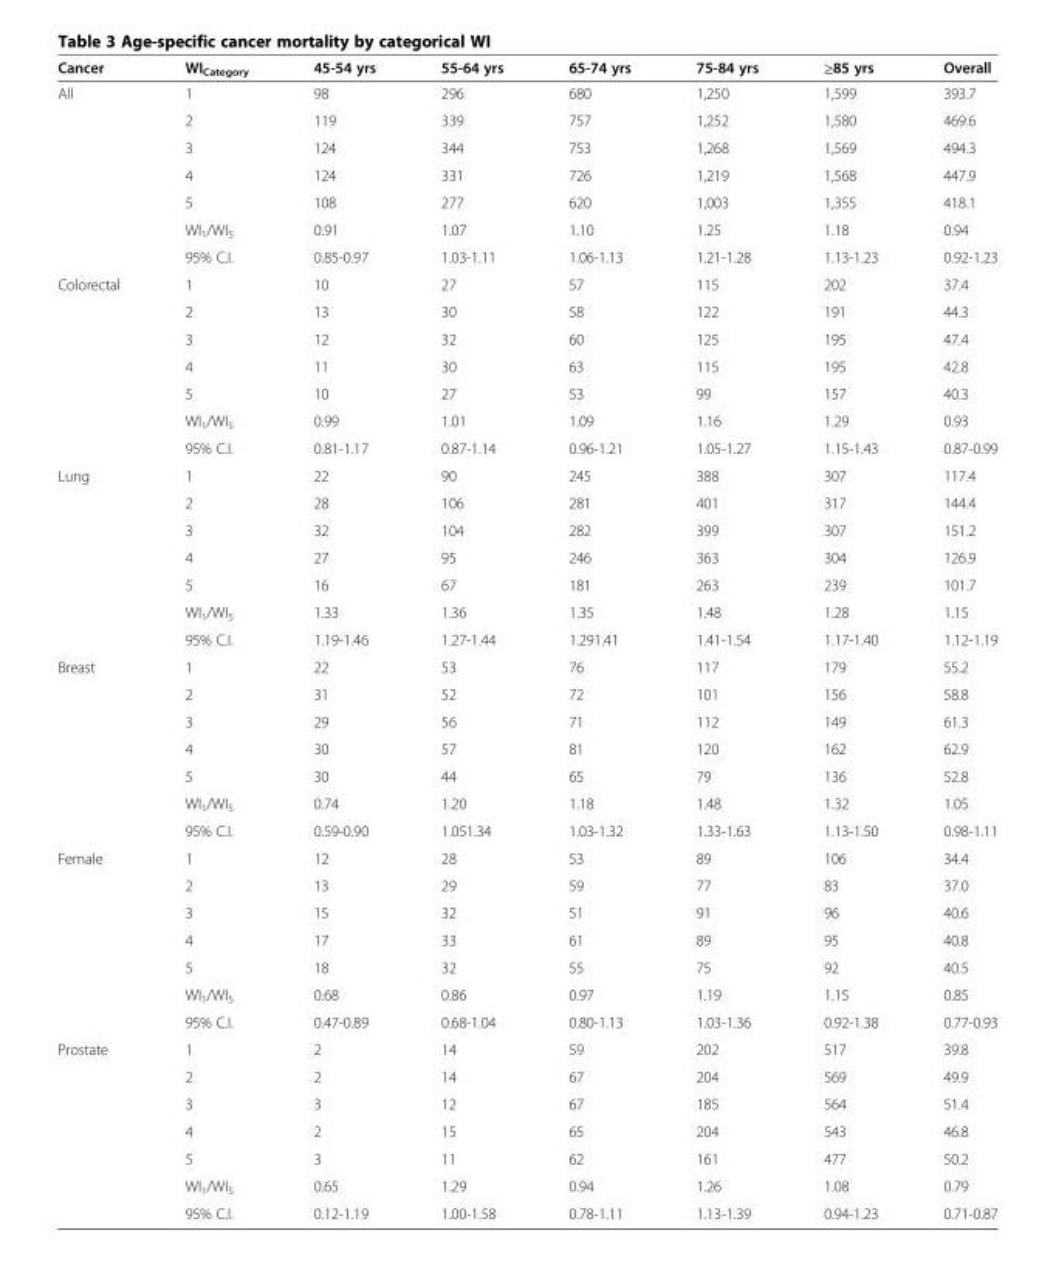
<table><thead><tr><td>Cancer</td><td>WI<sub>Category</sub></td><td>45-54 yrs</td><td>55-64 yrs</td><td>65-74 yrs</td><td>75-84 yrs</td><td>≥85 yrs</td><td>Overall</td></tr></thead><tbody><tr><td rowspan="7">All</td><td>1</td><td>98</td><td>296</td><td>680</td><td>1,250</td><td>1,599</td><td>393.7</td></tr><tr><td>2</td><td>119</td><td>339</td><td>757</td><td>1,252</td><td>1,580</td><td>469.6</td></tr><tr><td>3</td><td>124</td><td>344</td><td>753</td><td>1,268</td><td>1,569</td><td>494.3</td></tr><tr><td>4</td><td>124</td><td>331</td><td>726</td><td>1,219</td><td>1,568</td><td>447.9</td></tr><tr><td>5</td><td>108</td><td>277</td><td>620</td><td>1,003</td><td>1,355</td><td>418.1</td></tr><tr><td>WI<sub>1</sub>/WI<sub>5</sub></td><td>0.91</td><td>1.07</td><td>1.10</td><td>1.25</td><td>1.18</td><td>0.94</td></tr><tr><td>95% C.I.</td><td>0.85-0.97</td><td>1.03-1.11</td><td>1.06-1.13</td><td>1.21-1.28</td><td>1.13-1.23</td><td>0.92-1.23</td></tr><tr><td rowspan="7">Colorectal</td><td>1</td><td>10</td><td>27</td><td>57</td><td>115</td><td>202</td><td>37.4</td></tr><tr><td>2</td><td>13</td><td>30</td><td>58</td><td>122</td><td>191</td><td>44.3</td></tr><tr><td>3</td><td>12</td><td>32</td><td>60</td><td>125</td><td>195</td><td>47.4</td></tr><tr><td>4</td><td>11</td><td>30</td><td>63</td><td>115</td><td>195</td><td>42.8</td></tr><tr><td>5</td><td>10</td><td>27</td><td>53</td><td>99</td><td>157</td><td>40.3</td></tr><tr><td>WI<sub>1</sub>/WI<sub>5</sub></td><td>0.99</td><td>1.01</td><td>1.09</td><td>1.16</td><td>1.29</td><td>0.93</td></tr><tr><td>95% C.I.</td><td>0.81-1.17</td><td>0.87-1.14</td><td>0.96-1.21</td><td>1.05-1.27</td><td>1.15-1.43</td><td>0.87-0.99</td></tr><tr><td rowspan="7">Lung</td><td>1</td><td>22</td><td>90</td><td>245</td><td>388</td><td>307</td><td>117.4</td></tr><tr><td>2</td><td>28</td><td>106</td><td>281</td><td>401</td><td>317</td><td>144.4</td></tr><tr><td>3</td><td>32</td><td>104</td><td>282</td><td>399</td><td>307</td><td>151.2</td></tr><tr><td>4</td><td>27</td><td>95</td><td>246</td><td>363</td><td>304</td><td>126.9</td></tr><tr><td>5</td><td>16</td><td>67</td><td>181</td><td>263</td><td>239</td><td>101.7</td></tr><tr><td>WI<sub>1</sub>/WI<sub>5</sub></td><td>1.33</td><td>1.36</td><td>1.35</td><td>1.48</td><td>1.28</td><td>1.15</td></tr><tr><td>95% C.I.</td><td>1.19-1.46</td><td>1.27-1.44</td><td>1.291.41</td><td>1.41-1.54</td><td>1.17-1.40</td><td>1.12-1.19</td></tr><tr><td rowspan="7">Breast</td><td>1</td><td>22</td><td>53</td><td>76</td><td>117</td><td>179</td><td>55.2</td></tr><tr><td>2</td><td>31</td><td>52</td><td>72</td><td>101</td><td>156</td><td>58.8</td></tr><tr><td>3</td><td>29</td><td>56</td><td>71</td><td>112</td><td>149</td><td>61.3</td></tr><tr><td>4</td><td>30</td><td>57</td><td>81</td><td>120</td><td>162</td><td>62.9</td></tr><tr><td>5</td><td>30</td><td>44</td><td>65</td><td>79</td><td>136</td><td>52.8</td></tr><tr><td>WI<sub>1</sub>/WI<sub>5</sub></td><td>0.74</td><td>1.20</td><td>1.18</td><td>1.48</td><td>1.32</td><td>1.05</td></tr><tr><td>95% C.I.</td><td>0.59-0.90</td><td>1.051.34</td><td>1.03-1.32</td><td>1.33-1.63</td><td>1.13-1.50</td><td>0.98-1.11</td></tr><tr><td rowspan="7">Female</td><td>1</td><td>12</td><td>28</td><td>53</td><td>89</td><td>106</td><td>34.4</td></tr><tr><td>2</td><td>13</td><td>29</td><td>59</td><td>77</td><td>83</td><td>37.0</td></tr><tr><td>3</td><td>15</td><td>32</td><td>51</td><td>91</td><td>96</td><td>40.6</td></tr><tr><td>4</td><td>17</td><td>33</td><td>61</td><td>89</td><td>95</td><td>40.8</td></tr><tr><td>5</td><td>18</td><td>32</td><td>55</td><td>75</td><td>92</td><td>40.5</td></tr><tr><td>WI<sub>1</sub>/WI<sub>5</sub></td><td>0.68</td><td>0.86</td><td>0.97</td><td>1.19</td><td>1.15</td><td>0.85</td></tr><tr><td>95% C.I.</td><td>0.47-0.89</td><td>0.68-1.04</td><td>0.80-1.13</td><td>1.03-1.36</td><td>0.92-1.38</td><td>0.77-0.93</td></tr><tr><td rowspan="7">Prostate</td><td>1</td><td>2</td><td>14</td><td>59</td><td>202</td><td>517</td><td>39.8</td></tr><tr><td>2</td><td>2</td><td>14</td><td>67</td><td>204</td><td>569</td><td>49.9</td></tr><tr><td>3</td><td>3</td><td>12</td><td>67</td><td>185</td><td>564</td><td>51.4</td></tr><tr><td>4</td><td>2</td><td>15</td><td>65</td><td>204</td><td>543</td><td>46.8</td></tr><tr><td>5</td><td>3</td><td>11</td><td>62</td><td>161</td><td>477</td><td>50.2</td></tr><tr><td>WI<sub>1</sub>/WI<sub>5</sub></td><td>0.65</td><td>1.29</td><td>0.94</td><td>1.26</td><td>1.08</td><td>0.79</td></tr><tr><td>95% C.I.</td><td>0.12-1.19</td><td>1.00-1.58</td><td>0.78-1.11</td><td>1.13-1.39</td><td>0.94-1.23</td><td>0.71-0.87</td></tr></tbody></table>